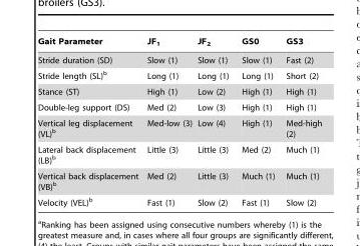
<table><thead><tr><td>Gait Parameter</td><td>JF<sub>1</sub></td><td>JF<sub>2</sub></td><td>GS0</td><td>GS3</td></tr></thead><tbody><tr><td>Stride duration (SD)</td><td>Slow (1)</td><td>Slow (1)</td><td>Slow (1)</td><td>Fast (2)</td></tr><tr><td>Stride length (SL)<sup>b</sup></td><td>Long (1)</td><td>Long (1)</td><td>Long (1)</td><td>Short (2)</td></tr><tr><td>Stance (ST)</td><td>High (1)</td><td>Low (2)</td><td>High (1)</td><td>High (1)</td></tr><tr><td>Double-leg support (DS)</td><td>Med (2)</td><td>Low (3)</td><td>High (1)</td><td>High (1)</td></tr><tr><td>Vertical leg displacement (VL)<sup>b</sup></td><td>Med-low (3)</td><td>Low (4)</td><td>High (1)</td><td>Med-high (2)</td></tr><tr><td>Lateral back displacement (LB)<sup>b</sup></td><td>Little (3)</td><td>Little (3)</td><td>Med (2)</td><td>Much (1)</td></tr><tr><td>Vertical back displacement (VB)<sup>b</sup></td><td>Med (2)</td><td>Little (3)</td><td>Much (1)</td><td>Much (1)</td></tr><tr><td>Velocity (VEL)<sup>b</sup></td><td>Fast (1)</td><td>Slow (2)</td><td>Fast (1)</td><td>Slow (2)</td></tr></tbody></table>